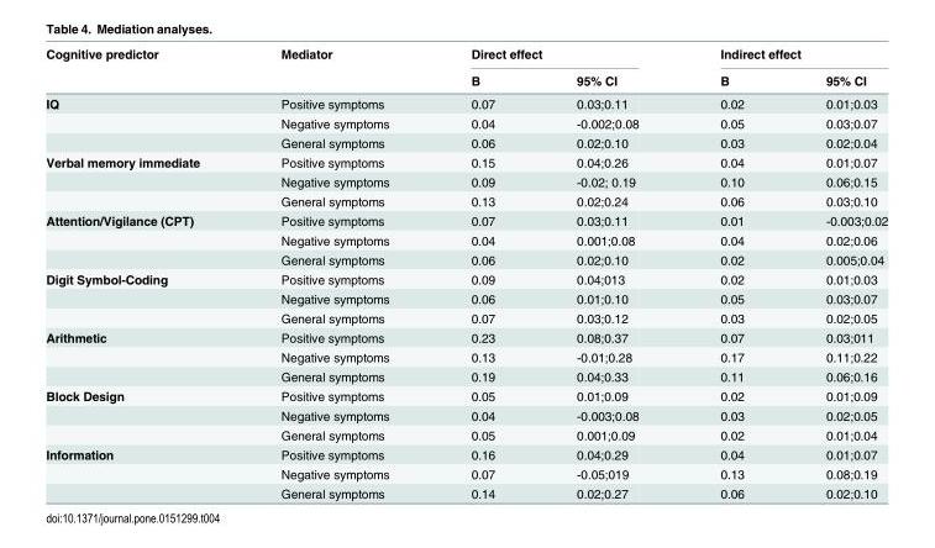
<table><thead><tr><td rowspan="2">Cognitive predictor</td><td rowspan="2">Mediator</td><td colspan="2">Direct effect</td><td colspan="2">Indirect effect</td></tr><tr><td>B</td><td>95% CI</td><td>B</td><td>95% CI</td></tr></thead><tbody><tr><td rowspan="3">IQ</td><td>Positive symptoms</td><td>0.07</td><td>0.03;0.11</td><td>0.02</td><td>0.01;0.03</td></tr><tr><td>Negative symptoms</td><td>0.04</td><td>-0.002;0.08</td><td>0.05</td><td>0.03;0.07</td></tr><tr><td>General symptoms</td><td>0.06</td><td>0.02;0.10</td><td>0.03</td><td>0.02;0.04</td></tr><tr><td rowspan="3">Verbal memory immediate</td><td>Positive symptoms</td><td>0.15</td><td>0.04;0.26</td><td>0.04</td><td>0.01;0.07</td></tr><tr><td>Negative symptoms</td><td>0.09</td><td>-0.02; 0.19</td><td>0.10</td><td>0.06;0.15</td></tr><tr><td>General symptoms</td><td>0.13</td><td>0.02;0.24</td><td>0.06</td><td>0.03;0.10</td></tr><tr><td rowspan="3">Attention/Vigilance (CPT)</td><td>Positive symptoms</td><td>0.07</td><td>0.03;0.11</td><td>0.01</td><td>-0.003;0.02</td></tr><tr><td>Negative symptoms</td><td>0.04</td><td>0.001;0.08</td><td>0.04</td><td>0.02;0.06</td></tr><tr><td>General symptoms</td><td>0.06</td><td>0.02;0.10</td><td>0.02</td><td>0.005;0.04</td></tr><tr><td rowspan="3">Digit Symbol-Coding</td><td>Positive symptoms</td><td>0.09</td><td>0.04;013</td><td>0.02</td><td>0.01;0.03</td></tr><tr><td>Negative symptoms</td><td>0.06</td><td>0.01;0.10</td><td>0.05</td><td>0.03;0.07</td></tr><tr><td>General symptoms</td><td>0.07</td><td>0.03;0.12</td><td>0.03</td><td>0.02;0.05</td></tr><tr><td rowspan="3">Arithmetic</td><td>Positive symptoms</td><td>0.23</td><td>0.08;0.37</td><td>0.07</td><td>0.03;011</td></tr><tr><td>Negative symptoms</td><td>0.13</td><td>-0.01;0.28</td><td>0.17</td><td>0.11;0.22</td></tr><tr><td>General symptoms</td><td>0.19</td><td>0.04;0.33</td><td>0.11</td><td>0.06;0.16</td></tr><tr><td rowspan="3">Block Design</td><td>Positive symptoms</td><td>0.05</td><td>0.01;0.09</td><td>0.02</td><td>0.01;0.09</td></tr><tr><td>Negative symptoms</td><td>0.04</td><td>-0.003;0.08</td><td>0.03</td><td>0.02;0.05</td></tr><tr><td>General symptoms</td><td>0.05</td><td>0.001;0.09</td><td>0.02</td><td>0.01;0.04</td></tr><tr><td rowspan="3">Information</td><td>Positive symptoms</td><td>0.16</td><td>0.04;0.29</td><td>0.04</td><td>0.01;0.07</td></tr><tr><td>Negative symptoms</td><td>0.07</td><td>-0.05;019</td><td>0.13</td><td>0.08;0.19</td></tr><tr><td>General symptoms</td><td>0.14</td><td>0.02;0.27</td><td>0.06</td><td>0.02;0.10</td></tr></tbody></table>